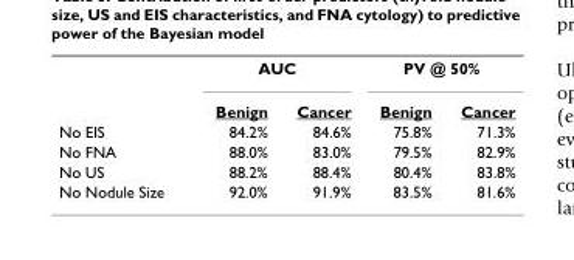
<table><thead><tr><td rowspan="2"></td><td colspan="2">AUC</td><td colspan="2">PV @ 50%</td></tr><tr><td>Benign</td><td>Cancer</td><td>Benign</td><td>Cancer</td></tr></thead><tbody><tr><td>No EIS</td><td>84.2%</td><td>84.6%</td><td>75.8%</td><td>71.3%</td></tr><tr><td>No FNA</td><td>88.0%</td><td>83.0%</td><td>79.5%</td><td>82.9%</td></tr><tr><td>No US</td><td>88.2%</td><td>88.4%</td><td>80.4%</td><td>83.8%</td></tr><tr><td>No Nodule Size</td><td>92.0%</td><td>91.9%</td><td>83.5%</td><td>81.6%</td></tr></tbody></table>